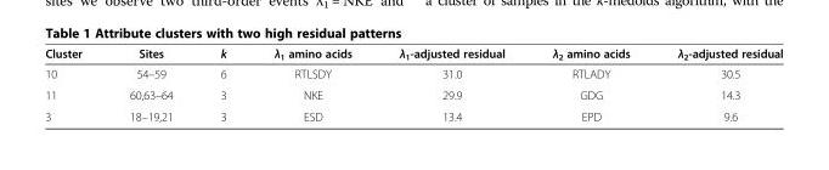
<table><thead><tr><td>Cluster</td><td>Sites</td><td>k</td><td>λ<sub>1</sub> amino acids</td><td>λ<sub>1</sub>-adjusted residual</td><td>λ<sub>2</sub> amino acids</td><td>λ<sub>2</sub>-adjusted residual</td></tr></thead><tbody><tr><td>10</td><td>54–59</td><td>6</td><td>RTLSDY</td><td>31.0</td><td>RTLADY</td><td>30.5</td></tr><tr><td>11</td><td>60,63–64</td><td>3</td><td>NKE</td><td>29.9</td><td>GDG</td><td>14.3</td></tr><tr><td>3</td><td>18–19,21</td><td>3</td><td>ESD</td><td>13.4</td><td>EPD</td><td>9.6</td></tr></tbody></table>